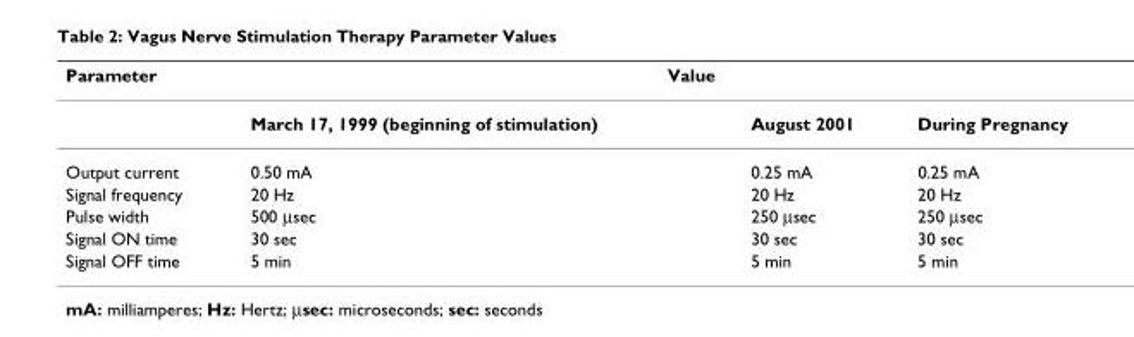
<table><thead><tr><td rowspan="2">Parameter</td><td colspan="3">Value</td></tr><tr><td>March 17, 1999 (beginning of stimulation)</td><td>August 2001</td><td>During Pregnancy</td></tr></thead><tbody><tr><td>Output current</td><td>0.50 mA</td><td>0.25 mA</td><td>0.25 mA</td></tr><tr><td>Signal frequency</td><td>20 Hz</td><td>20 Hz</td><td>20 Hz</td></tr><tr><td>Pulse width</td><td>500 µsec</td><td>250 µsec</td><td>250 µsec</td></tr><tr><td>Signal ON time</td><td>30 sec</td><td>30 sec</td><td>30 sec</td></tr><tr><td>Signal OFF time</td><td>5 min</td><td>5 min</td><td>5 min</td></tr></tbody></table>